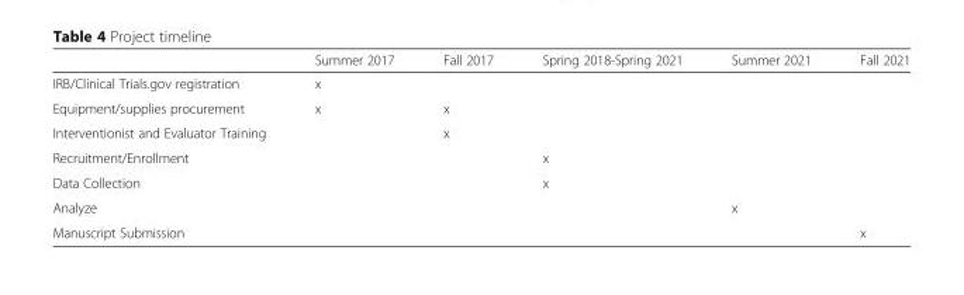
<table><thead><tr><td></td><td>Summer 2017</td><td>Fall 2017</td><td>Spring 2018-Spring 2021</td><td>Summer 2021</td><td>Fall 2021</td></tr></thead><tbody><tr><td>IRB/Clinical Trials.gov registration</td><td>x</td><td></td><td></td><td></td><td></td></tr><tr><td>Equipment/supplies procurement</td><td>x</td><td>x</td><td></td><td></td><td></td></tr><tr><td>Interventionist and Evaluator Training</td><td></td><td>x</td><td></td><td></td><td></td></tr><tr><td>Recruitment/Enrollment</td><td></td><td></td><td>x</td><td></td><td></td></tr><tr><td>Data Collection</td><td></td><td></td><td>x</td><td></td><td></td></tr><tr><td>Analyze</td><td></td><td></td><td></td><td>x</td><td></td></tr><tr><td>Manuscript Submission</td><td></td><td></td><td></td><td></td><td>x</td></tr></tbody></table>